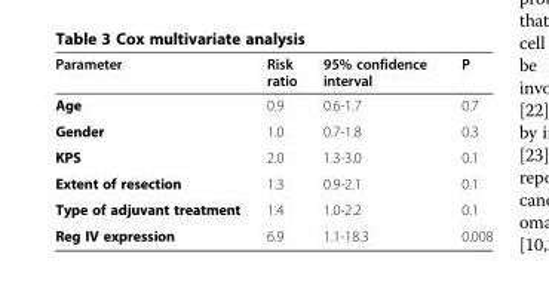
<table><thead><tr><td>Parameter</td><td>Risk ratio</td><td>95% confidence interval</td><td>P</td></tr></thead><tbody><tr><td>Age</td><td>0.9</td><td>0.6-1.7</td><td>0.7</td></tr><tr><td>Gender</td><td>1.0</td><td>0.7-1.8</td><td>0.3</td></tr><tr><td>KPS</td><td>2.0</td><td>1.3-3.0</td><td>0.1</td></tr><tr><td>Extent of resection</td><td>1.3</td><td>0.9-2.1</td><td>0.1</td></tr><tr><td>Type of adjuvant treatment</td><td>1.4</td><td>1.0-2.2</td><td>0.1</td></tr><tr><td>Reg IV expression</td><td>6.9</td><td>1.1-18.3</td><td>0.008</td></tr></tbody></table>